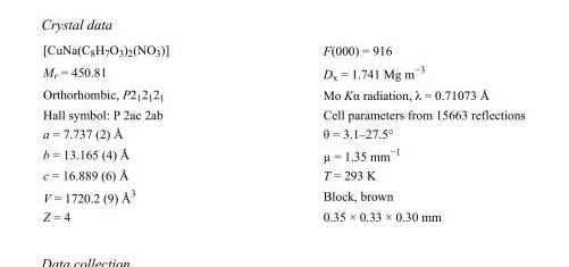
<table><tbody><tr><td>[CuNa(C<sub>8</sub>H<sub>7</sub>O<sub>3</sub>)<sub>2</sub>(NO<sub>3</sub>)]</td><td>F(000) = 916</td></tr><tr><td>M<sub>r</sub> = 450.81</td><td>D<sub>x</sub> = 1.741 Mg m<sup>−3</sup></td></tr><tr><td>Orthorhombic, P2<sub>1</sub>2<sub>1</sub>2<sub>1</sub></td><td>Mo Kα radiation, λ = 0.71073 Å</td></tr><tr><td>Hall symbol: P 2ac 2ab</td><td>Cell parameters from 15663 reflections</td></tr><tr><td>a = 7.737 (2) Å</td><td>θ = 3.1–27.5°</td></tr><tr><td>b = 13.165 (4) Å</td><td>µ = 1.35 mm<sup>−1</sup></td></tr><tr><td>c = 16.889 (6) Å</td><td>T = 293 K</td></tr><tr><td>V = 1720.2 (9) Å<sup>3</sup></td><td>Block, brown</td></tr><tr><td>Z = 4</td><td>0.35 × 0.33 × 0.30 mm</td></tr></tbody></table>